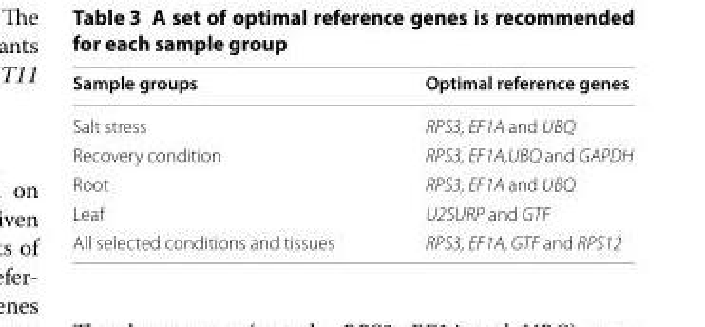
<table><thead><tr><td>Sample groups</td><td>Optimal reference genes</td></tr></thead><tbody><tr><td>Salt stress</td><td>RPS3, EF1A and UBQ</td></tr><tr><td>Recovery condition</td><td>RPS3, EF1A,UBQ and GAPDH</td></tr><tr><td>Root</td><td>RPS3, EF1A and UBQ</td></tr><tr><td>Leaf</td><td>U2SURP and GTF</td></tr><tr><td>All selected conditions and tissues</td><td>RPS3, EF1A, GTF and RPS12</td></tr></tbody></table>